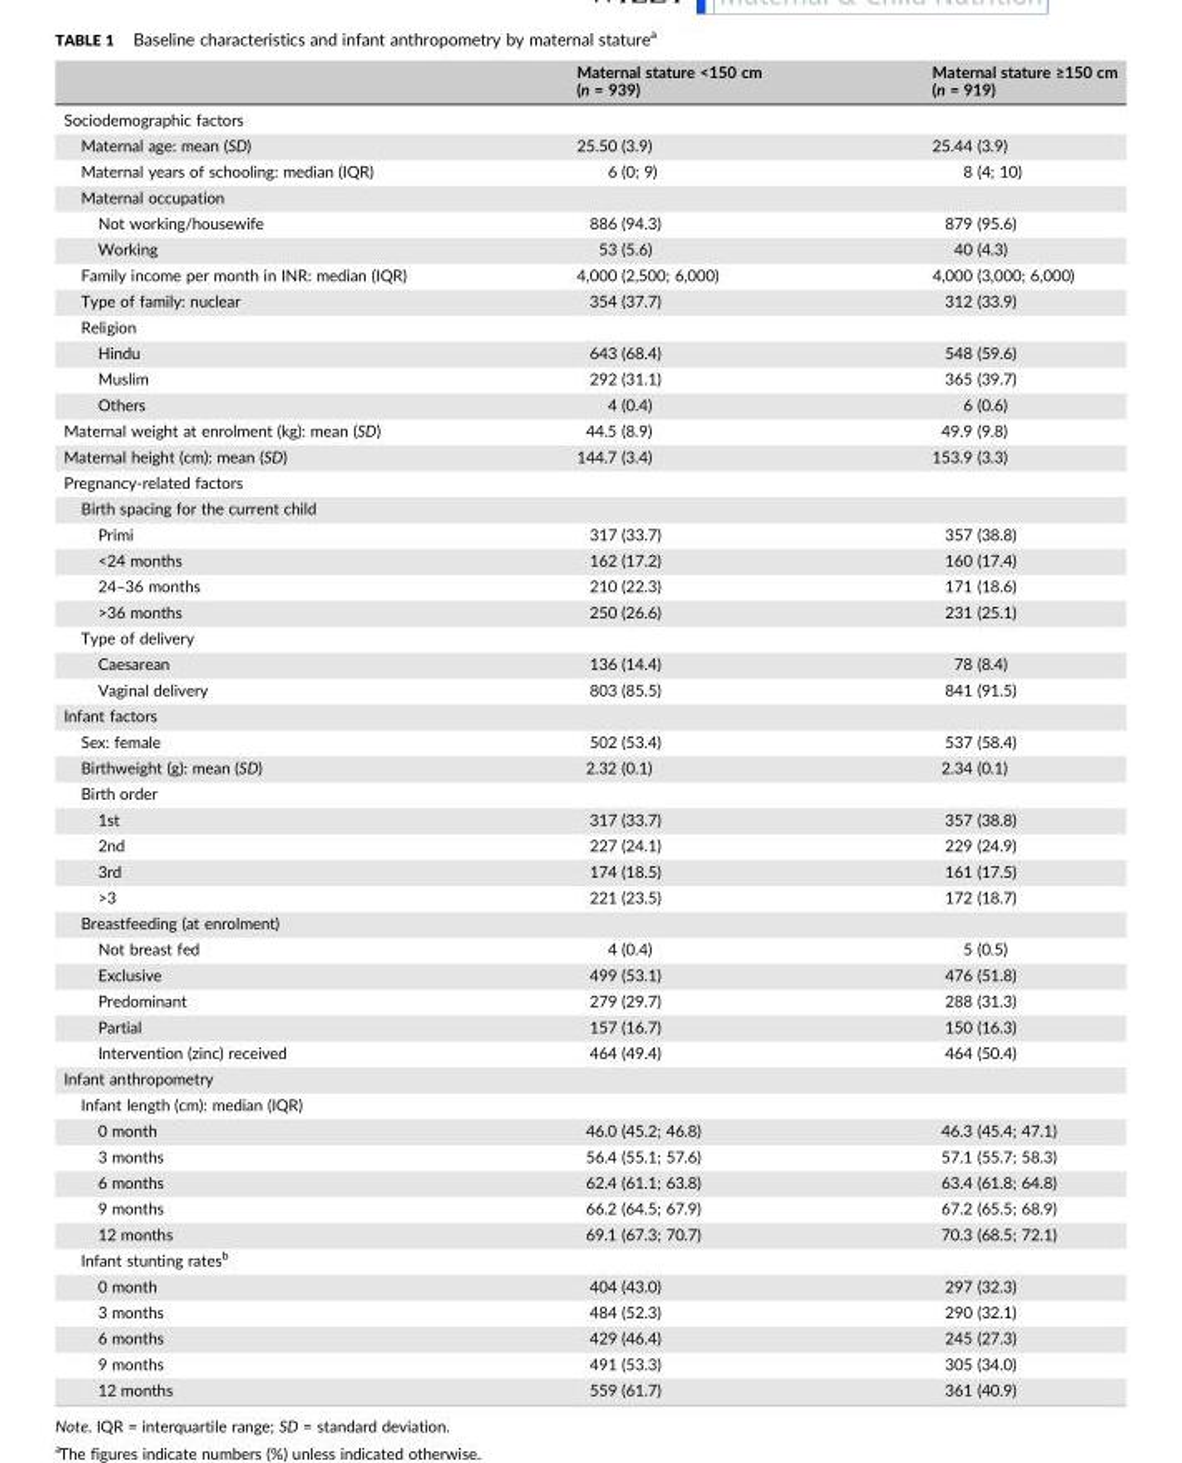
<table><thead><tr><td></td><td>Maternal stature &lt;150 cm (n = 939)</td><td>Maternal stature ≥150 cm (n = 919)</td></tr></thead><tbody><tr><td colspan="3">Sociodemographic factors</td></tr><tr><td>Maternal age: mean (SD)</td><td>25.50 (3.9)</td><td>25.44 (3.9)</td></tr><tr><td>Maternal years of schooling: median (IQR)</td><td>6 (0; 9)</td><td>8 (4; 10)</td></tr><tr><td colspan="3">Maternal occupation</td></tr><tr><td>Not working/housewife</td><td>886 (94.3)</td><td>879 (95.6)</td></tr><tr><td>Working</td><td>53 (5.6)</td><td>40 (4.3)</td></tr><tr><td>Family income per month in INR: median (IQR)</td><td>4,000 (2,500; 6,000)</td><td>4,000 (3,000; 6,000)</td></tr><tr><td>Type of family: nuclear</td><td>354 (37.7)</td><td>312 (33.9)</td></tr><tr><td colspan="3">Religion</td></tr><tr><td>Hindu</td><td>643 (68.4)</td><td>548 (59.6)</td></tr><tr><td>Muslim</td><td>292 (31.1)</td><td>365 (39.7)</td></tr><tr><td>Others</td><td>4 (0.4)</td><td>6 (0.6)</td></tr><tr><td>Maternal weight at enrolment (kg): mean (SD)</td><td>44.5 (8.9)</td><td>49.9 (9.8)</td></tr><tr><td>Maternal height (cm): mean (SD)</td><td>144.7 (3.4)</td><td>153.9 (3.3)</td></tr><tr><td colspan="3">Pregnancy‐related factors</td></tr><tr><td colspan="3">Birth spacing for the current child</td></tr><tr><td>Primi</td><td>317 (33.7)</td><td>357 (38.8)</td></tr><tr><td>&lt;24 months</td><td>162 (17.2)</td><td>160 (17.4)</td></tr><tr><td>24–36 months</td><td>210 (22.3)</td><td>171 (18.6)</td></tr><tr><td>&gt;36 months</td><td>250 (26.6)</td><td>231 (25.1)</td></tr><tr><td colspan="3">Type of delivery</td></tr><tr><td>Caesarean</td><td>136 (14.4)</td><td>78 (8.4)</td></tr><tr><td>Vaginal delivery</td><td>803 (85.5)</td><td>841 (91.5)</td></tr><tr><td colspan="3">Infant factors</td></tr><tr><td>Sex: female</td><td>502 (53.4)</td><td>537 (58.4)</td></tr><tr><td>Birthweight (g): mean (SD)</td><td>2.32 (0.1)</td><td>2.34 (0.1)</td></tr><tr><td colspan="3">Birth order</td></tr><tr><td>1st</td><td>317 (33.7)</td><td>357 (38.8)</td></tr><tr><td>2nd</td><td>227 (24.1)</td><td>229 (24.9)</td></tr><tr><td>3rd</td><td>174 (18.5)</td><td>161 (17.5)</td></tr><tr><td>&gt;3</td><td>221 (23.5)</td><td>172 (18.7)</td></tr><tr><td colspan="3">Breastfeeding (at enrolment)</td></tr><tr><td>Not breast fed</td><td>4 (0.4)</td><td>5 (0.5)</td></tr><tr><td>Exclusive</td><td>499 (53.1)</td><td>476 (51.8)</td></tr><tr><td>Predominant</td><td>279 (29.7)</td><td>288 (31.3)</td></tr><tr><td>Partial</td><td>157 (16.7)</td><td>150 (16.3)</td></tr><tr><td>Intervention (zinc) received</td><td>464 (49.4)</td><td>464 (50.4)</td></tr><tr><td colspan="3">Infant anthropometry</td></tr><tr><td colspan="3">Infant length (cm): median (IQR)</td></tr><tr><td>0 month</td><td>46.0 (45.2; 46.8)</td><td>46.3 (45.4; 47.1)</td></tr><tr><td>3 months</td><td>56.4 (55.1; 57.6)</td><td>57.1 (55.7; 58.3)</td></tr><tr><td>6 months</td><td>62.4 (61.1; 63.8)</td><td>63.4 (61.8; 64.8)</td></tr><tr><td>9 months</td><td>66.2 (64.5; 67.9)</td><td>67.2 (65.5; 68.9)</td></tr><tr><td>12 months</td><td>69.1 (67.3; 70.7)</td><td>70.3 (68.5; 72.1)</td></tr><tr><td colspan="3">Infant stunting rates<sup>b</sup></td></tr><tr><td>0 month</td><td>404 (43.0)</td><td>297 (32.3)</td></tr><tr><td>3 months</td><td>484 (52.3)</td><td>290 (32.1)</td></tr><tr><td>6 months</td><td>429 (46.4)</td><td>245 (27.3)</td></tr><tr><td>9 months</td><td>491 (53.3)</td><td>305 (34.0)</td></tr><tr><td>12 months</td><td>559 (61.7)</td><td>361 (40.9)</td></tr></tbody></table>